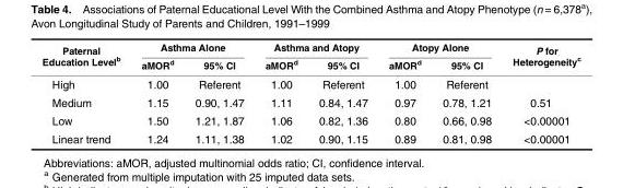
<table><thead><tr><td rowspan="2">Paternal Education Level<sup>b</sup></td><td colspan="2">Asthma Alone</td><td colspan="2">Asthma and Atopy</td><td colspan="2">Atopy Alone</td><td rowspan="2">P for Heterogeneity<sup>c</sup></td></tr><tr><td>aMOR<sup>d</sup></td><td>95% CI</td><td>aMOR<sup>d</sup></td><td>95% CI</td><td>aMOR<sup>d</sup></td><td>95% CI</td></tr></thead><tbody><tr><td>High</td><td>1.00</td><td>Referent</td><td>1.00</td><td>Referent</td><td>1.00</td><td>Referent</td><td></td></tr><tr><td>Medium</td><td>1.15</td><td>0.90, 1.47</td><td>1.11</td><td>0.84, 1.47</td><td>0.97</td><td>0.78, 1.21</td><td>0.51</td></tr><tr><td>Low</td><td>1.50</td><td>1.21, 1.87</td><td>1.06</td><td>0.82, 1.36</td><td>0.80</td><td>0.66, 0.98</td><td>&lt;0.00001</td></tr><tr><td>Linear trend</td><td>1.24</td><td>1.11, 1.38</td><td>1.02</td><td>0.90, 1.15</td><td>0.89</td><td>0.81, 0.98</td><td>&lt;0.00001</td></tr></tbody></table>